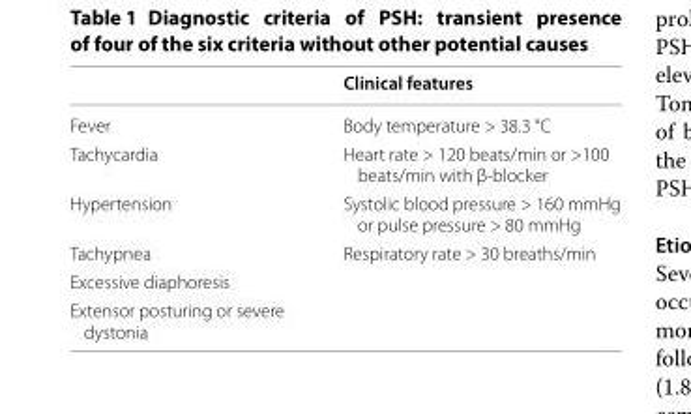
<table><thead><tr><td></td><td>Clinical features</td></tr></thead><tbody><tr><td>Fever</td><td>Body temperature &gt; 38.3 °C</td></tr><tr><td>Tachycardia</td><td>Heart rate &gt; 120 beats/min or &gt;100 beats/min with β-blocker</td></tr><tr><td>Hypertension</td><td>Systolic blood pressure &gt; 160 mmHg or pulse pressure &gt; 80 mmHg</td></tr><tr><td>Tachypnea</td><td>Respiratory rate &gt; 30 breaths/min</td></tr><tr><td colspan="2">Excessive diaphoresis</td></tr><tr><td>Extensor posturing or severe dystonia</td><td></td></tr></tbody></table>